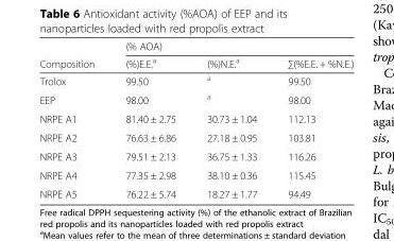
<table><thead><tr><td rowspan="2">Composition</td><td colspan="3">(% AOA)</td></tr><tr><td>(%)E.E.<sup>a</sup></td><td>(%)N.E.<sup>a</sup></td><td>∑(%E.E. + %N.E.)</td></tr></thead><tbody><tr><td>Trolox</td><td>99.50</td><td><sup>a</sup></td><td>99.50</td></tr><tr><td>EEP</td><td>98.00</td><td><sup>a</sup></td><td>98.00</td></tr><tr><td>NRPE A1</td><td>81.40 ± 2.75</td><td>30.73 ± 1.04</td><td>112.13</td></tr><tr><td>NRPE A2</td><td>76.63 ± 6.86</td><td>27.18 ± 0.95</td><td>103.81</td></tr><tr><td>NRPE A3</td><td>79.51 ± 2.13</td><td>36.75 ± 1.33</td><td>116.26</td></tr><tr><td>NRPE A4</td><td>77.35 ± 2.98</td><td>38.10 ± 0.36</td><td>115.45</td></tr><tr><td>NRPE A5</td><td>76.22 ± 5.74</td><td>18.27 ± 1.77</td><td>94.49</td></tr></tbody></table>